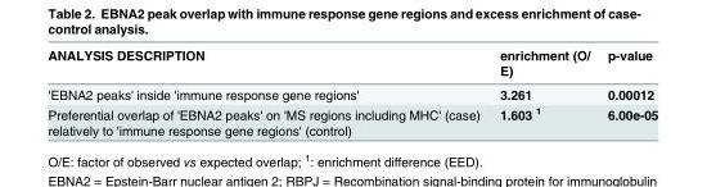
<table><thead><tr><td>ANALYSIS DESCRIPTION</td><td>enrichment (O/ E)</td><td>p-value</td></tr></thead><tbody><tr><td>&#x27;EBNA2 peaks&#x27; inside &#x27;immune response gene regions&#x27;</td><td>3.261</td><td>0.00012</td></tr><tr><td>Preferential overlap of &#x27;EBNA2 peaks&#x27; on &#x27;MS regions including MHC&#x27; (case) relatively to &#x27;immune response gene regions&#x27; (control)</td><td>1.603 <sup>1</sup></td><td>6.00e-05</td></tr></tbody></table>